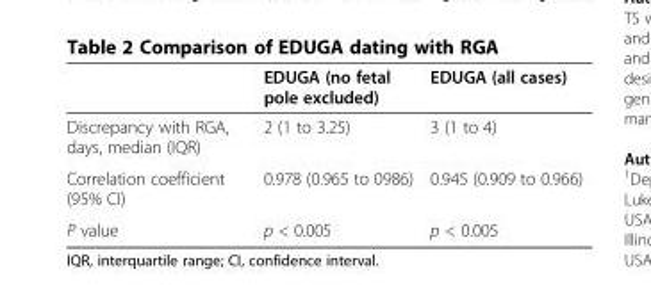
<table><thead><tr><td></td><td>EDUGA (no fetal pole excluded)</td><td>EDUGA (all cases)</td></tr></thead><tbody><tr><td>Discrepancy with RGA, days, median (IQR)</td><td>2 (1 to 3.25)</td><td>3 (1 to 4)</td></tr><tr><td>Correlation coefficient (95% CI)</td><td>0.978 (0.965 to 0986)</td><td>0.945 (0.909 to 0.966)</td></tr><tr><td>P value</td><td>p &lt; 0.005</td><td>p &lt; 0.005</td></tr></tbody></table>